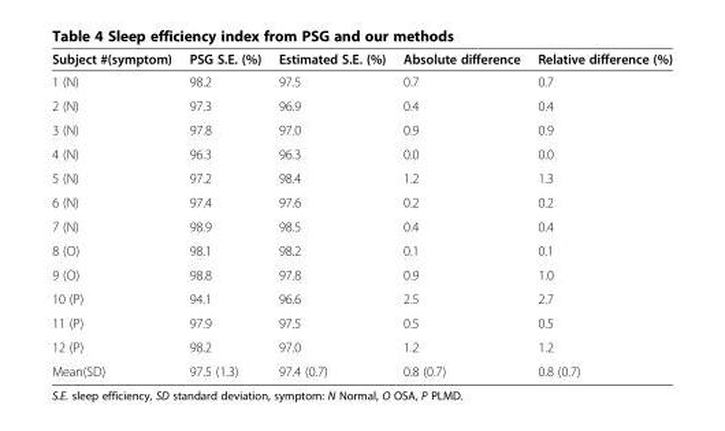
<table><thead><tr><td>Subject #(symptom)</td><td>PSG S.E. (%)</td><td>Estimated S.E. (%)</td><td>Absolute difference</td><td>Relative difference (%)</td></tr></thead><tbody><tr><td>1 (N)</td><td>98.2</td><td>97.5</td><td>0.7</td><td>0.7</td></tr><tr><td>2 (N)</td><td>97.3</td><td>96.9</td><td>0.4</td><td>0.4</td></tr><tr><td>3 (N)</td><td>97.8</td><td>97.0</td><td>0.9</td><td>0.9</td></tr><tr><td>4 (N)</td><td>96.3</td><td>96.3</td><td>0.0</td><td>0.0</td></tr><tr><td>5 (N)</td><td>97.2</td><td>98.4</td><td>1.2</td><td>1.3</td></tr><tr><td>6 (N)</td><td>97.4</td><td>97.6</td><td>0.2</td><td>0.2</td></tr><tr><td>7 (N)</td><td>98.9</td><td>98.5</td><td>0.4</td><td>0.4</td></tr><tr><td>8 (O)</td><td>98.1</td><td>98.2</td><td>0.1</td><td>0.1</td></tr><tr><td>9 (O)</td><td>98.8</td><td>97.8</td><td>0.9</td><td>1.0</td></tr><tr><td>10 (P)</td><td>94.1</td><td>96.6</td><td>2.5</td><td>2.7</td></tr><tr><td>11 (P)</td><td>97.9</td><td>97.5</td><td>0.5</td><td>0.5</td></tr><tr><td>12 (P)</td><td>98.2</td><td>97.0</td><td>1.2</td><td>1.2</td></tr><tr><td>Mean(SD)</td><td>97.5 (1.3)</td><td>97.4 (0.7)</td><td>0.8 (0.7)</td><td>0.8 (0.7)</td></tr></tbody></table>